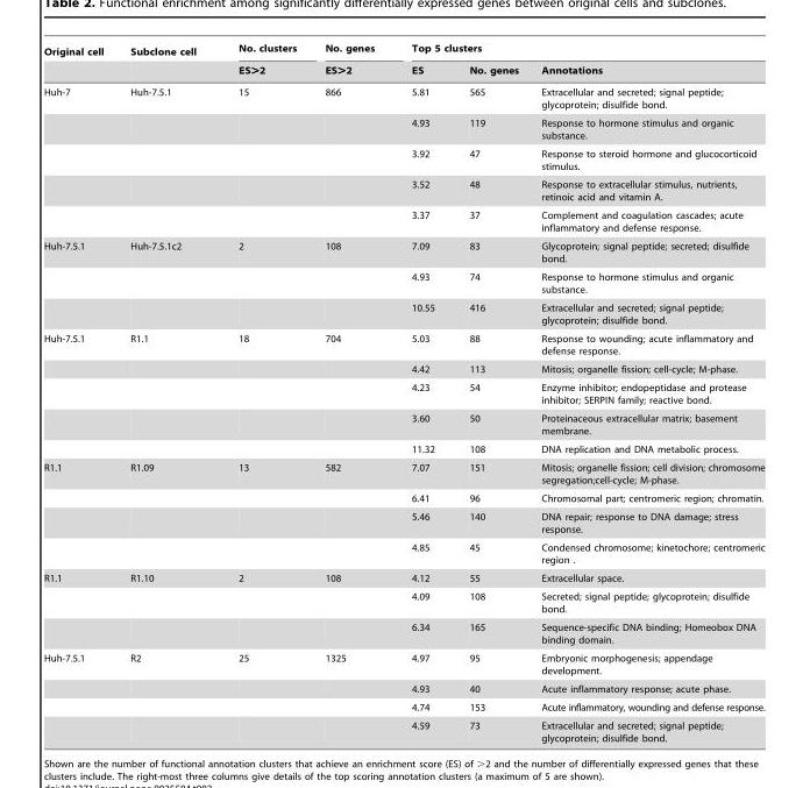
<table><thead><tr><td rowspan="2">Original cell</td><td rowspan="2">Subclone cell</td><td rowspan="2">No. clusters ES&gt;2</td><td rowspan="2">No. genes ES&gt;2</td><td colspan="3">Top 5 clusters</td></tr><tr><td>ES</td><td>No. genes</td><td>Annotations</td></tr></thead><tbody><tr><td rowspan="5">Huh-7</td><td>Huh-7.5.1</td><td>15</td><td>866</td><td>5.81</td><td>565</td><td>Extracellular and secreted; signal peptide; glycoprotein; disulfide bond.</td></tr><tr><td></td><td></td><td></td><td>4.93</td><td>119</td><td>Response to hormone stimulus and organic substance.</td></tr><tr><td></td><td></td><td></td><td>3.92</td><td>47</td><td>Response to steroid hormone and glucocorticoid stimulus.</td></tr><tr><td></td><td></td><td></td><td>3.52</td><td>48</td><td>Response to extracellular stimulus, nutrients, retinoic acid and vitamin A.</td></tr><tr><td></td><td></td><td></td><td>3.37</td><td>37</td><td>Complement and coagulation cascades; acute inflammatory and defense response.</td></tr><tr><td rowspan="3">Huh-7.5.1</td><td>Huh-7.5.1c2</td><td>2</td><td>108</td><td>7.09</td><td>83</td><td>Glycoprotein; signal peptide; secreted; disulfide bond.</td></tr><tr><td></td><td></td><td></td><td>4.93</td><td>74</td><td>Response to hormone stimulus and organic substance.</td></tr><tr><td></td><td></td><td></td><td>10.55</td><td>416</td><td>Extracellular and secreted; signal peptide; glycoprotein; disulfide bond.</td></tr><tr><td rowspan="5">Huh-7.5.1</td><td>R1.1</td><td>18</td><td>704</td><td>5.03</td><td>88</td><td>Response to wounding; acute inflammatory and defense response.</td></tr><tr><td></td><td></td><td></td><td>4.42</td><td>113</td><td>Mitosis; organelle fission; cell-cycle; M-phase.</td></tr><tr><td></td><td></td><td></td><td>4.23</td><td>54</td><td>Enzyme inhibitor; endopeptidase and protease inhibitor; SERPIN family; reactive bond.</td></tr><tr><td></td><td></td><td></td><td>3.60</td><td>50</td><td>Proteinaceous extracellular matrix; basement membrane.</td></tr><tr><td></td><td></td><td></td><td>11.32</td><td>108</td><td>DNA replication and DNA metabolic process.</td></tr><tr><td rowspan="4">R1.1</td><td>R1.09</td><td>13</td><td>582</td><td>7.07</td><td>151</td><td>Mitosis; organelle fission; cell division; chromosome segregation;cell-cycle; M-phase.</td></tr><tr><td></td><td></td><td></td><td>6.41</td><td>96</td><td>Chromosomal part; centromeric region; chromatin.</td></tr><tr><td></td><td></td><td></td><td>5.46</td><td>140</td><td>DNA repair; response to DNA damage; stress response.</td></tr><tr><td></td><td></td><td></td><td>4.85</td><td>45</td><td>Condensed chromosome; kinetochore; centromeric region .</td></tr><tr><td rowspan="3">R1.1</td><td>R1.10</td><td>2</td><td>108</td><td>4.12</td><td>55</td><td>Extracellular space.</td></tr><tr><td></td><td></td><td></td><td>4.09</td><td>108</td><td>Secreted; signal peptide; glycoprotein; disulfide bond.</td></tr><tr><td></td><td></td><td></td><td>6.34</td><td>165</td><td>Sequence-specific DNA binding; Homeobox DNA binding domain.</td></tr><tr><td rowspan="4">Huh-7.5.1</td><td>R2</td><td>25</td><td>1325</td><td>4.97</td><td>95</td><td>Embryonic morphogenesis; appendage development.</td></tr><tr><td></td><td></td><td></td><td>4.93</td><td>40</td><td>Acute inflammatory response; acute phase.</td></tr><tr><td></td><td></td><td></td><td>4.74</td><td>153</td><td>Acute inflammatory, wounding and defense response.</td></tr><tr><td></td><td></td><td></td><td>4.59</td><td>73</td><td>Extracellular and secreted; signal peptide; glycoprotein; disulfide bond.</td></tr></tbody></table>